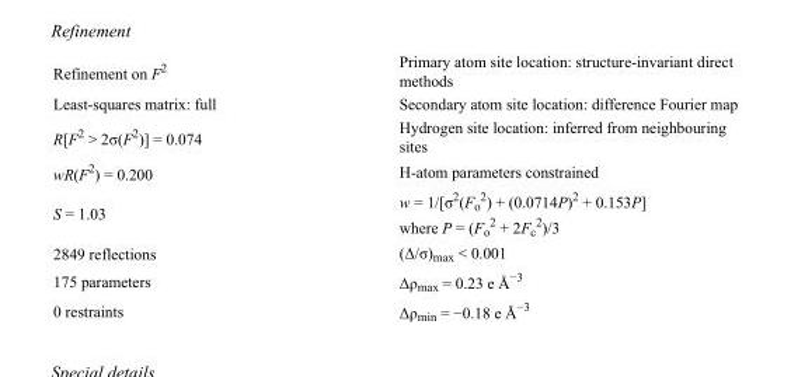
<table><tbody><tr><td>Refinement on F<sup>2</sup></td><td>Primary atom site location: structure-invariant direct methods</td></tr><tr><td>Least-squares matrix: full</td><td>Secondary atom site location: difference Fourier map</td></tr><tr><td>R[F<sup>2</sup> &gt; 2σ(F<sup>2</sup>)] = 0.074</td><td>Hydrogen site location: inferred from neighbouring sites</td></tr><tr><td>wR(F<sup>2</sup>) = 0.200</td><td>H-atom parameters constrained</td></tr><tr><td>S = 1.03</td><td>w = 1/[σ<sup>2</sup>(F<sub>o</sub> <sup>2</sup>) + (0.0714P)<sup>2</sup> + 0.153P] where P = (F<sub>o</sub> <sup>2</sup> + 2F<sub>c</sub> <sup>2</sup>)/3</td></tr><tr><td>2849 reflections</td><td>(Δ/σ)<sub>max</sub> &lt; 0.001</td></tr><tr><td>175 parameters</td><td>Δρ<sub>max</sub> = 0.23 e Å<sup>−3</sup></td></tr><tr><td>0 restraints</td><td>Δρ<sub>min</sub> = −0.18 e Å<sup>−3</sup></td></tr></tbody></table>